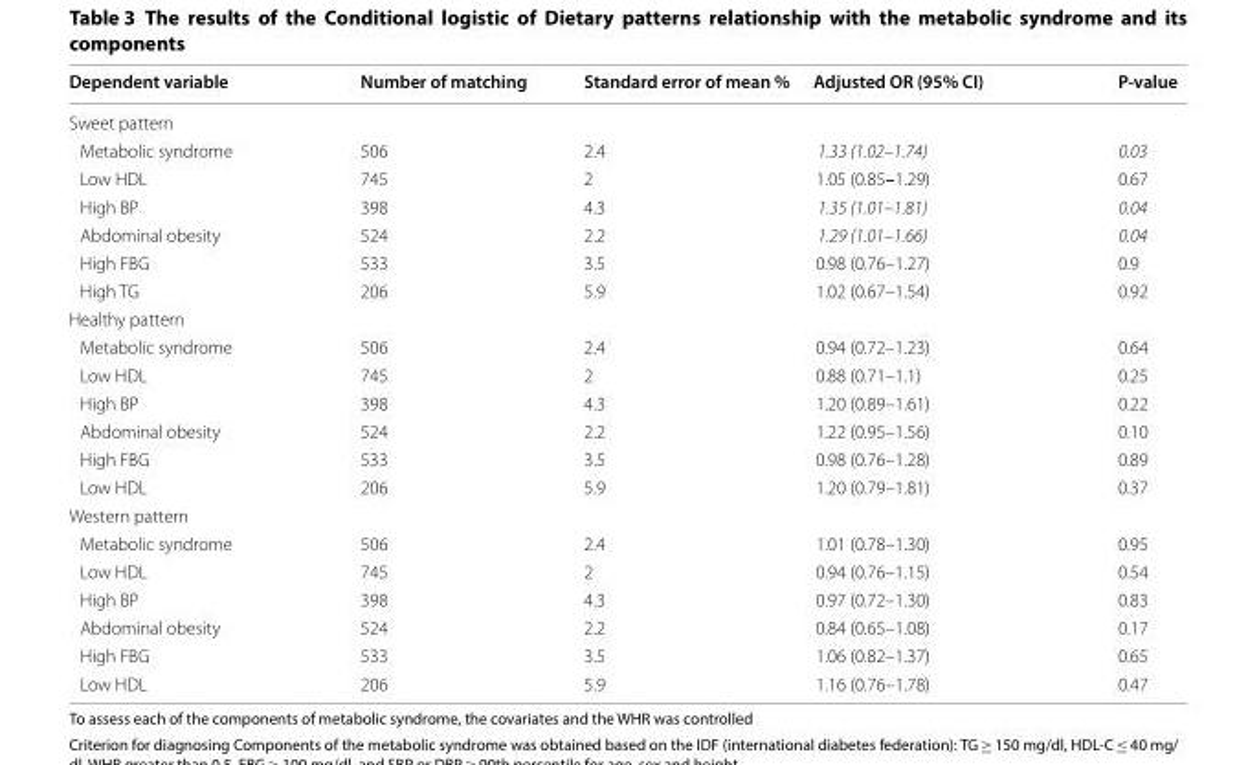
<table><thead><tr><td>Dependent variable</td><td>Number of matching</td><td>Standard error of mean %</td><td>Adjusted OR (95% CI)</td><td>P-value</td></tr></thead><tbody><tr><td colspan="5">Sweet pattern</td></tr><tr><td>Metabolic syndrome</td><td>506</td><td>2.4</td><td>1.33 (1.02–1.74)</td><td>0.03</td></tr><tr><td>Low HDL</td><td>745</td><td>2</td><td>1.05 (0.85–1.29)</td><td>0.67</td></tr><tr><td>High BP</td><td>398</td><td>4.3</td><td>1.35 (1.01–1.81)</td><td>0.04</td></tr><tr><td>Abdominal obesity</td><td>524</td><td>2.2</td><td>1.29 (1.01–1.66)</td><td>0.04</td></tr><tr><td>High FBG</td><td>533</td><td>3.5</td><td>0.98 (0.76–1.27)</td><td>0.9</td></tr><tr><td>High TG</td><td>206</td><td>5.9</td><td>1.02 (0.67–1.54)</td><td>0.92</td></tr><tr><td colspan="5">Healthy pattern</td></tr><tr><td>Metabolic syndrome</td><td>506</td><td>2.4</td><td>0.94 (0.72–1.23)</td><td>0.64</td></tr><tr><td>Low HDL</td><td>745</td><td>2</td><td>0.88 (0.71–1.1)</td><td>0.25</td></tr><tr><td>High BP</td><td>398</td><td>4.3</td><td>1.20 (0.89–1.61)</td><td>0.22</td></tr><tr><td>Abdominal obesity</td><td>524</td><td>2.2</td><td>1.22 (0.95–1.56)</td><td>0.10</td></tr><tr><td>High FBG</td><td>533</td><td>3.5</td><td>0.98 (0.76–1.28)</td><td>0.89</td></tr><tr><td>Low HDL</td><td>206</td><td>5.9</td><td>1.20 (0.79–1.81)</td><td>0.37</td></tr><tr><td colspan="5">Western pattern</td></tr><tr><td>Metabolic syndrome</td><td>506</td><td>2.4</td><td>1.01 (0.78–1.30)</td><td>0.95</td></tr><tr><td>Low HDL</td><td>745</td><td>2</td><td>0.94 (0.76–1.15)</td><td>0.54</td></tr><tr><td>High BP</td><td>398</td><td>4.3</td><td>0.97 (0.72–1.30)</td><td>0.83</td></tr><tr><td>Abdominal obesity</td><td>524</td><td>2.2</td><td>0.84 (0.65–1.08)</td><td>0.17</td></tr><tr><td>High FBG</td><td>533</td><td>3.5</td><td>1.06 (0.82–1.37)</td><td>0.65</td></tr><tr><td>Low HDL</td><td>206</td><td>5.9</td><td>1.16 (0.76–1.78)</td><td>0.47</td></tr></tbody></table>